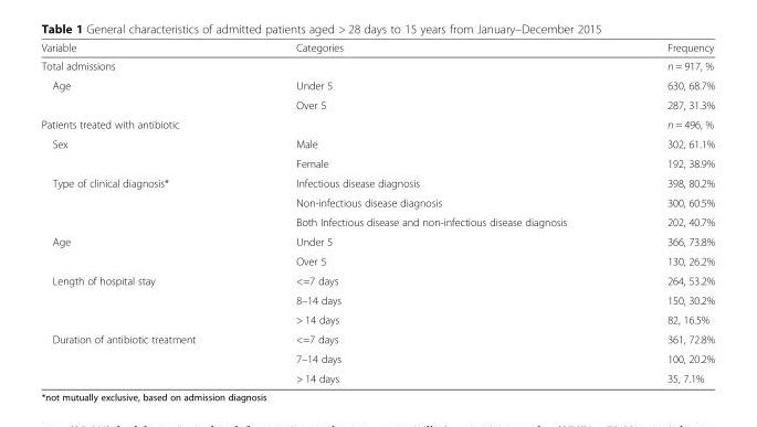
<table><thead><tr><td>Variable</td><td>Categories</td><td>Frequency</td></tr></thead><tbody><tr><td>Total admissions</td><td></td><td>n = 917, %</td></tr><tr><td rowspan="2">Age</td><td>Under 5</td><td>630, 68.7%</td></tr><tr><td>Over 5</td><td>287, 31.3%</td></tr><tr><td>Patients treated with antibiotic</td><td></td><td>n = 496, %</td></tr><tr><td rowspan="2">Sex</td><td>Male</td><td>302, 61.1%</td></tr><tr><td>Female</td><td>192, 38.9%</td></tr><tr><td rowspan="3">Type of clinical diagnosis*</td><td>Infectious disease diagnosis</td><td>398, 80.2%</td></tr><tr><td>Non-infectious disease diagnosis</td><td>300, 60.5%</td></tr><tr><td>Both Infectious disease and non-infectious disease diagnosis</td><td>202, 40.7%</td></tr><tr><td rowspan="2">Age</td><td>Under 5</td><td>366, 73.8%</td></tr><tr><td>Over 5</td><td>130, 26.2%</td></tr><tr><td rowspan="3">Length of hospital stay</td><td>&lt;=7 days</td><td>264, 53.2%</td></tr><tr><td>8–14 days</td><td>150, 30.2%</td></tr><tr><td>&gt; 14 days</td><td>82, 16.5%</td></tr><tr><td rowspan="3">Duration of antibiotic treatment</td><td>&lt;=7 days</td><td>361, 72.8%</td></tr><tr><td>7–14 days</td><td>100, 20.2%</td></tr><tr><td>&gt; 14 days</td><td>35, 7.1%</td></tr></tbody></table>